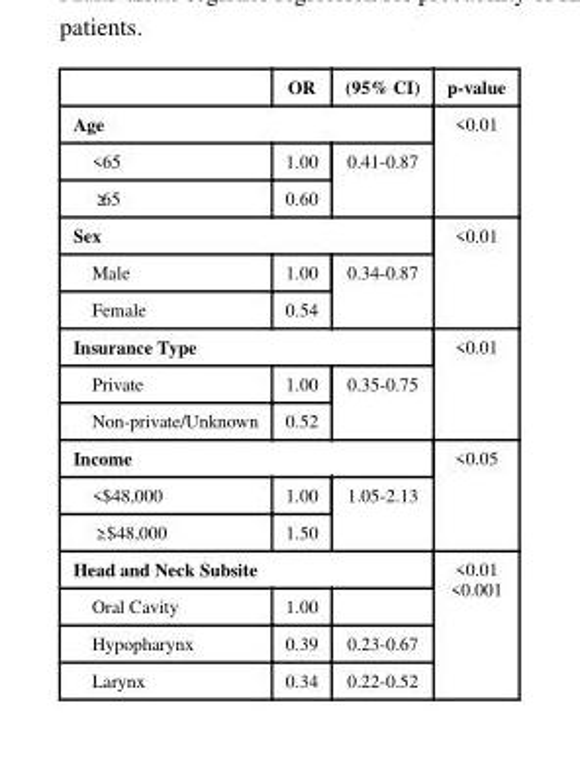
<table><thead><tr><td></td><td>OR</td><td>(95% CI)</td><td>p-value</td></tr></thead><tbody><tr><td colspan="3">Age</td><td rowspan="3">&lt;0.01</td></tr><tr><td>&lt;65</td><td>1.00</td><td rowspan="2">0.41-0.87</td></tr><tr><td>≥65</td><td>0.60</td></tr><tr><td colspan="3">Sex</td><td rowspan="3">&lt;0.01</td></tr><tr><td>Male</td><td>1.00</td><td rowspan="2">0.34-0.87</td></tr><tr><td>Female</td><td>0.54</td></tr><tr><td colspan="3">Insurance Type</td><td rowspan="3">&lt;0.01</td></tr><tr><td>Private</td><td>1.00</td><td rowspan="2">0.35-0.75</td></tr><tr><td>Non-private/Unknown</td><td>0.52</td></tr><tr><td colspan="3">Income</td><td rowspan="3">&lt;0.05</td></tr><tr><td>&lt;$48,000</td><td>1.00</td><td rowspan="2">1.05-2.13</td></tr><tr><td>≥ $48,000</td><td>1.50</td></tr><tr><td colspan="3">Head and Neck Subsite</td><td rowspan="4">&lt;0.01 &lt;0.001</td></tr><tr><td>Oral Cavity</td><td>1.00</td><td></td></tr><tr><td>Hypopharynx</td><td>0.39</td><td>0.23-0.67</td></tr><tr><td>Larynx</td><td>0.34</td><td>0.22-0.52</td></tr></tbody></table>